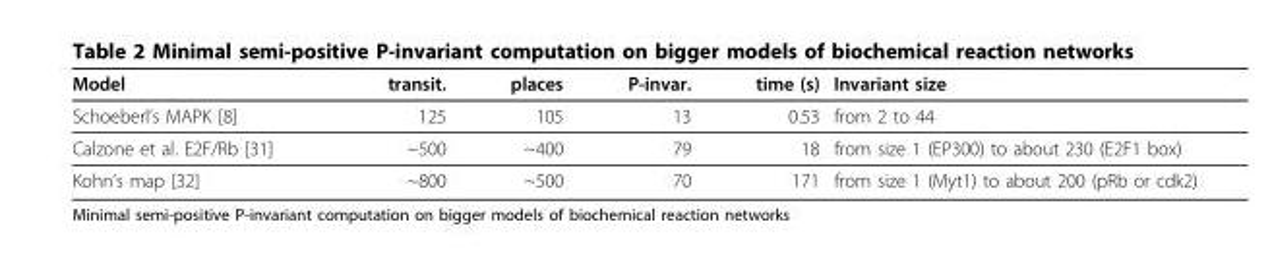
<table><thead><tr><td>Model</td><td>transit.</td><td>places</td><td>P-invar.</td><td>time (s)</td><td>Invariant size</td></tr></thead><tbody><tr><td>Schoeberl’s MAPK [8]</td><td>125</td><td>105</td><td>13</td><td>0.53</td><td>from 2 to 44</td></tr><tr><td>Calzone et al. E2F/Rb [31]</td><td>~500</td><td>~400</td><td>79</td><td>18</td><td>from size 1 (EP300) to about 230 (E2F1 box)</td></tr><tr><td>Kohn’s map [32]</td><td>~800</td><td>~500</td><td>70</td><td>171</td><td>from size 1 (Myt1) to about 200 (pRb or cdk2)</td></tr></tbody></table>